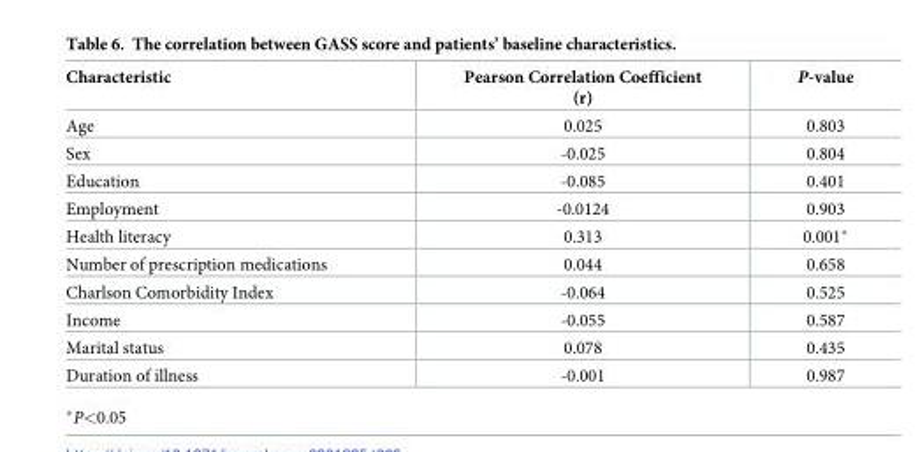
<table><thead><tr><td>Characteristic</td><td>Pearson Correlation Coefficient (r)</td><td>P-value</td></tr></thead><tbody><tr><td>Age</td><td>0.025</td><td>0.803</td></tr><tr><td>Sex</td><td>-0.025</td><td>0.804</td></tr><tr><td>Education</td><td>-0.085</td><td>0.401</td></tr><tr><td>Employment</td><td>-0.0124</td><td>0.903</td></tr><tr><td>Health literacy</td><td>0.313</td><td>0.001*</td></tr><tr><td>Number of prescription medications</td><td>0.044</td><td>0.658</td></tr><tr><td>Charlson Comorbidity Index</td><td>-0.064</td><td>0.525</td></tr><tr><td>Income</td><td>-0.055</td><td>0.587</td></tr><tr><td>Marital status</td><td>0.078</td><td>0.435</td></tr><tr><td>Duration of illness</td><td>-0.001</td><td>0.987</td></tr></tbody></table>